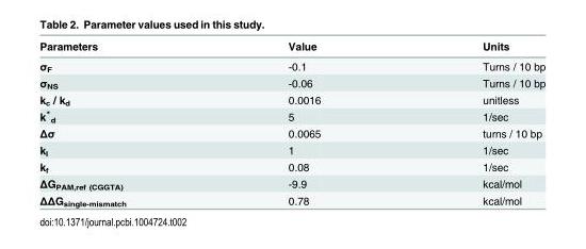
<table><thead><tr><td>Parameters</td><td>Value</td><td>Units</td></tr></thead><tbody><tr><td>σ<sub>F</sub></td><td>-0.1</td><td>Turns / 10 bp</td></tr><tr><td>σ<sub>NS</sub></td><td>-0.06</td><td>Turns / 10 bp</td></tr><tr><td>k<sub>c</sub> / k<sub>d</sub></td><td>0.0016</td><td>unitless</td></tr><tr><td>k* <sub>d</sub></td><td>5</td><td>1/sec</td></tr><tr><td>Δσ</td><td>0.0065</td><td>turns / 10 bp</td></tr><tr><td>k<sub>I</sub></td><td>1</td><td>1/sec</td></tr><tr><td>k<sub>f</sub></td><td>0.08</td><td>1/sec</td></tr><tr><td>ΔG<sub>PAM,ref (CGGTA)</sub></td><td>-9.9</td><td>kcal/mol</td></tr><tr><td>ΔΔG<sub>single-mismatch</sub></td><td>0.78</td><td>kcal/mol</td></tr></tbody></table>